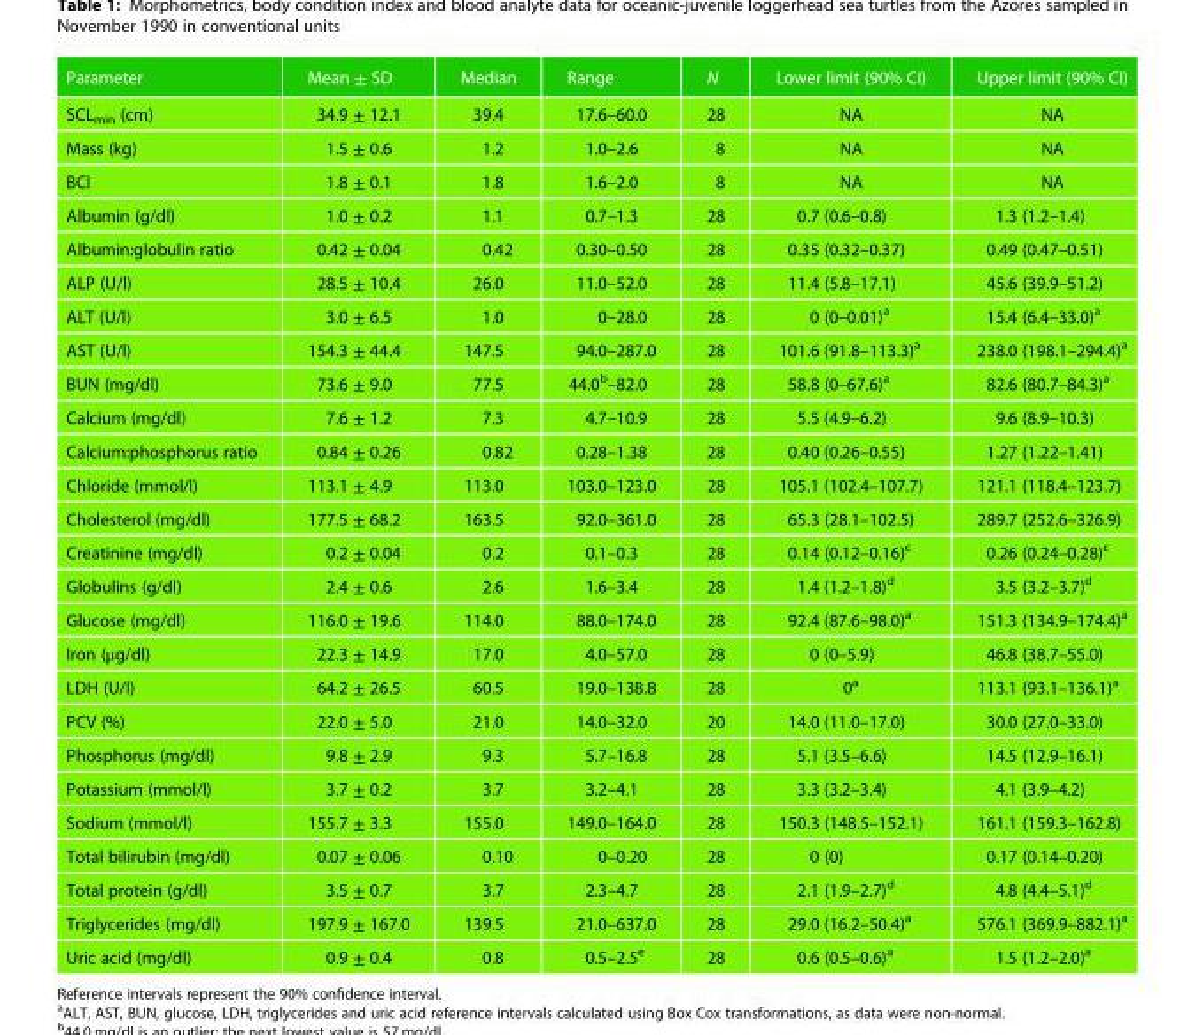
<table><thead><tr><td>Parameter</td><td>Mean ± SD</td><td>Median</td><td>Range</td><td>N</td><td>Lower limit (90% CI)</td><td>Upper limit (90% CI)</td></tr></thead><tbody><tr><td>SCL<sub>min</sub> (cm)</td><td>34.9 ± 12.1</td><td>39.4</td><td>17.6–60.0</td><td>28</td><td>NA</td><td>NA</td></tr><tr><td>Mass (kg)</td><td>1.5 ± 0.6</td><td>1.2</td><td>1.0–2.6</td><td>8</td><td>NA</td><td>NA</td></tr><tr><td>BCI</td><td>1.8 ± 0.1</td><td>1.8</td><td>1.6–2.0</td><td>8</td><td>NA</td><td>NA</td></tr><tr><td>Albumin (g/dl)</td><td>1.0 ± 0.2</td><td>1.1</td><td>0.7–1.3</td><td>28</td><td>0.7 (0.6–0.8)</td><td>1.3 (1.2–1.4)</td></tr><tr><td>Albumin:globulin ratio</td><td>0.42 ± 0.04</td><td>0.42</td><td>0.30–0.50</td><td>28</td><td>0.35 (0.32–0.37)</td><td>0.49 (0.47–0.51)</td></tr><tr><td>ALP (U/l)</td><td>28.5 ± 10.4</td><td>26.0</td><td>11.0–52.0</td><td>28</td><td>11.4 (5.8–17.1)</td><td>45.6 (39.9–51.2)</td></tr><tr><td>ALT (U/l)</td><td>3.0 ± 6.5</td><td>1.0</td><td>0–28.0</td><td>28</td><td>0 (0–0.01)<sup>a</sup></td><td>15.4 (6.4–33.0)<sup>a</sup></td></tr><tr><td>AST (U/l)</td><td>154.3 ± 44.4</td><td>147.5</td><td>94.0–287.0</td><td>28</td><td>101.6 (91.8–113.3)<sup>a</sup></td><td>238.0 (198.1–294.4)<sup>a</sup></td></tr><tr><td>BUN (mg/dl)</td><td>73.6 ± 9.0</td><td>77.5</td><td>44.0<sup>b</sup>–82.0</td><td>28</td><td>58.8 (0–67.6)<sup>a</sup></td><td>82.6 (80.7–84.3)<sup>a</sup></td></tr><tr><td>Calcium (mg/dl)</td><td>7.6 ± 1.2</td><td>7.3</td><td>4.7–10.9</td><td>28</td><td>5.5 (4.9–6.2)</td><td>9.6 (8.9–10.3)</td></tr><tr><td>Calcium:phosphorus ratio</td><td>0.84 ± 0.26</td><td>0.82</td><td>0.28–1.38</td><td>28</td><td>0.40 (0.26–0.55)</td><td>1.27 (1.22–1.41)</td></tr><tr><td>Chloride (mmol/l)</td><td>113.1 ± 4.9</td><td>113.0</td><td>103.0–123.0</td><td>28</td><td>105.1 (102.4–107.7)</td><td>121.1 (118.4–123.7)</td></tr><tr><td>Cholesterol (mg/dl)</td><td>177.5 ± 68.2</td><td>163.5</td><td>92.0–361.0</td><td>28</td><td>65.3 (28.1–102.5)</td><td>289.7 (252.6–326.9)</td></tr><tr><td>Creatinine (mg/dl)</td><td>0.2 ± 0.04</td><td>0.2</td><td>0.1–0.3</td><td>28</td><td>0.14 (0.12–0.16)<sup>c</sup></td><td>0.26 (0.24–0.28)<sup>c</sup></td></tr><tr><td>Globulins (g/dl)</td><td>2.4 ± 0.6</td><td>2.6</td><td>1.6–3.4</td><td>28</td><td>1.4 (1.2–1.8)<sup>d</sup></td><td>3.5 (3.2–3.7)<sup>d</sup></td></tr><tr><td>Glucose (mg/dl)</td><td>116.0 ± 19.6</td><td>114.0</td><td>88.0–174.0</td><td>28</td><td>92.4 (87.6–98.0)<sup>a</sup></td><td>151.3 (134.9–174.4)<sup>a</sup></td></tr><tr><td>Iron (μg/dl)</td><td>22.3 ± 14.9</td><td>17.0</td><td>4.0–57.0</td><td>28</td><td>0 (0–5.9)</td><td>46.8 (38.7–55.0)</td></tr><tr><td>LDH (U/l)</td><td>64.2 ± 26.5</td><td>60.5</td><td>19.0–138.8</td><td>28</td><td>0<sup>a</sup></td><td>113.1 (93.1–136.1)<sup>a</sup></td></tr><tr><td>PCV (%)</td><td>22.0 ± 5.0</td><td>21.0</td><td>14.0–32.0</td><td>20</td><td>14.0 (11.0–17.0)</td><td>30.0 (27.0–33.0)</td></tr><tr><td>Phosphorus (mg/dl)</td><td>9.8 ± 2.9</td><td>9.3</td><td>5.7–16.8</td><td>28</td><td>5.1 (3.5–6.6)</td><td>14.5 (12.9–16.1)</td></tr><tr><td>Potassium (mmol/l)</td><td>3.7 ± 0.2</td><td>3.7</td><td>3.2–4.1</td><td>28</td><td>3.3 (3.2–3.4)</td><td>4.1 (3.9–4.2)</td></tr><tr><td>Sodium (mmol/l)</td><td>155.7 ± 3.3</td><td>155.0</td><td>149.0–164.0</td><td>28</td><td>150.3 (148.5–152.1)</td><td>161.1 (159.3–162.8)</td></tr><tr><td>Total bilirubin (mg/dl)</td><td>0.07 ± 0.06</td><td>0.10</td><td>0–0.20</td><td>28</td><td>0 (0)</td><td>0.17 (0.14–0.20)</td></tr><tr><td>Total protein (g/dl)</td><td>3.5 ± 0.7</td><td>3.7</td><td>2.3–4.7</td><td>28</td><td>2.1 (1.9–2.7)<sup>d</sup></td><td>4.8 (4.4–5.1)<sup>d</sup></td></tr><tr><td>Triglycerides (mg/dl)</td><td>197.9 ± 167.0</td><td>139.5</td><td>21.0–637.0</td><td>28</td><td>29.0 (16.2–50.4)<sup>a</sup></td><td>576.1 (369.9–882.1)<sup>a</sup></td></tr><tr><td>Uric acid (mg/dl)</td><td>0.9 ± 0.4</td><td>0.8</td><td>0.5–2.5<sup>e</sup></td><td>28</td><td>0.6 (0.5–0.6)<sup>a</sup></td><td>1.5 (1.2–2.0)<sup>a</sup></td></tr></tbody></table>